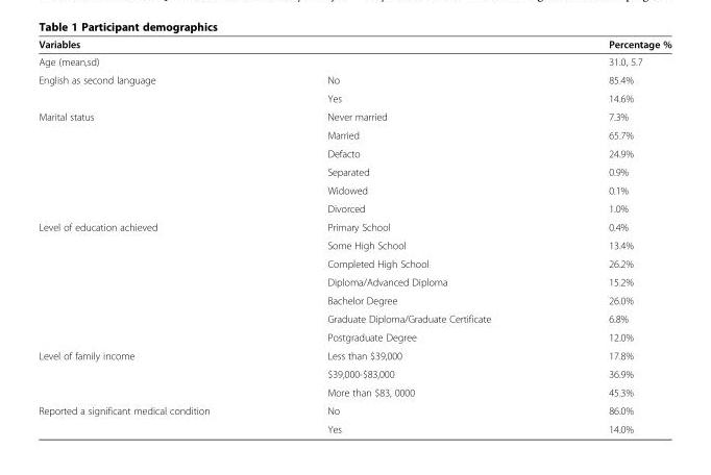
<table><thead><tr><td>Variables</td><td></td><td>Percentage %</td></tr></thead><tbody><tr><td>Age (mean,sd)</td><td></td><td>31.0, 5.7</td></tr><tr><td rowspan="2">English as second language</td><td>No</td><td>85.4%</td></tr><tr><td>Yes</td><td>14.6%</td></tr><tr><td rowspan="6">Marital status</td><td>Never married</td><td>7.3%</td></tr><tr><td>Married</td><td>65.7%</td></tr><tr><td>Defacto</td><td>24.9%</td></tr><tr><td>Separated</td><td>0.9%</td></tr><tr><td>Widowed</td><td>0.1%</td></tr><tr><td>Divorced</td><td>1.0%</td></tr><tr><td rowspan="7">Level of education achieved</td><td>Primary School</td><td>0.4%</td></tr><tr><td>Some High School</td><td>13.4%</td></tr><tr><td>Completed High School</td><td>26.2%</td></tr><tr><td>Diploma/Advanced Diploma</td><td>15.2%</td></tr><tr><td>Bachelor Degree</td><td>26.0%</td></tr><tr><td>Graduate Diploma/Graduate Certificate</td><td>6.8%</td></tr><tr><td>Postgraduate Degree</td><td>12.0%</td></tr><tr><td rowspan="3">Level of family income</td><td>Less than $39,000</td><td>17.8%</td></tr><tr><td>$39,000-$83,000</td><td>36.9%</td></tr><tr><td>More than $83, 0000</td><td>45.3%</td></tr><tr><td rowspan="2">Reported a significant medical condition</td><td>No</td><td>86.0%</td></tr><tr><td>Yes</td><td>14.0%</td></tr></tbody></table>